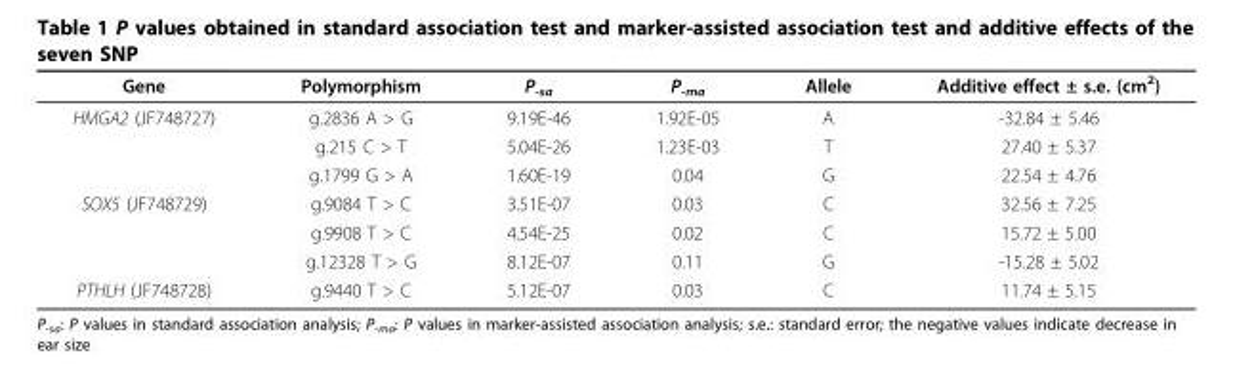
<table><thead><tr><td>Gene</td><td>Polymorphism</td><td>P<sub>-sa</sub></td><td>P<sub>-ma</sub></td><td>Allele</td><td>Additive effect ± s.e. (cm<sup>2</sup>)</td></tr></thead><tbody><tr><td rowspan="3">HMGA2 (JF748727)</td><td>g.2836 A &gt; G</td><td>9.19E-46</td><td>1.92E-05</td><td>A</td><td>-32.84 ± 5.46</td></tr><tr><td>g.215 C &gt; T</td><td>5.04E-26</td><td>1.23E-03</td><td>T</td><td>27.40 ± 5.37</td></tr><tr><td>g.1799 G &gt; A</td><td>1.60E-19</td><td>0.04</td><td>G</td><td>22.54 ± 4.76</td></tr><tr><td rowspan="3">SOX5 (JF748729)</td><td>g.9084 T &gt; C</td><td>3.51E-07</td><td>0.03</td><td>C</td><td>32.56 ± 7.25</td></tr><tr><td>g.9908 T &gt; C</td><td>4.54E-25</td><td>0.02</td><td>C</td><td>15.72 ± 5.00</td></tr><tr><td>g.12328 T &gt; G</td><td>8.12E-07</td><td>0.11</td><td>G</td><td>-15.28 ± 5.02</td></tr><tr><td>PTHLH (JF748728)</td><td>g.9440 T &gt; C</td><td>5.12E-07</td><td>0.03</td><td>C</td><td>11.74 ± 5.15</td></tr></tbody></table>